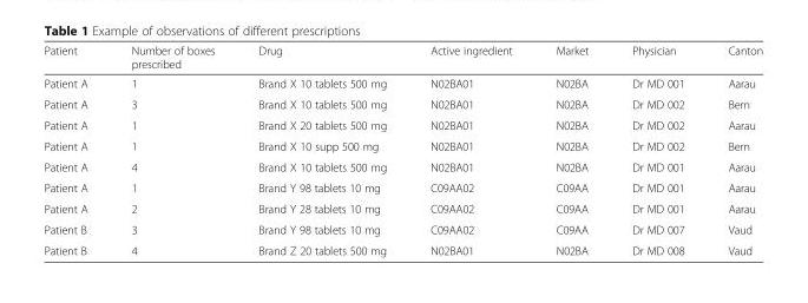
<table><thead><tr><td>Patient</td><td>Number of boxes prescribed</td><td>Drug</td><td>Active ingredient</td><td>Market</td><td>Physician</td><td>Canton</td></tr></thead><tbody><tr><td>Patient A</td><td>1</td><td>Brand X 10 tablets 500 mg</td><td>N02BA01</td><td>N02BA</td><td>Dr MD 001</td><td>Aarau</td></tr><tr><td>Patient A</td><td>3</td><td>Brand X 10 tablets 500 mg</td><td>N02BA01</td><td>N02BA</td><td>Dr MD 002</td><td>Bern</td></tr><tr><td>Patient A</td><td>1</td><td>Brand X 20 tablets 500 mg</td><td>N02BA01</td><td>N02BA</td><td>Dr MD 002</td><td>Aarau</td></tr><tr><td>Patient A</td><td>1</td><td>Brand X 10 supp 500 mg</td><td>N02BA01</td><td>N02BA</td><td>Dr MD 002</td><td>Bern</td></tr><tr><td>Patient A</td><td>4</td><td>Brand X 10 tablets 500 mg</td><td>N02BA01</td><td>N02BA</td><td>Dr MD 001</td><td>Aarau</td></tr><tr><td>Patient A</td><td>1</td><td>Brand Y 98 tablets 10 mg</td><td>C09AA02</td><td>C09AA</td><td>Dr MD 001</td><td>Aarau</td></tr><tr><td>Patient A</td><td>2</td><td>Brand Y 28 tablets 10 mg</td><td>C09AA02</td><td>C09AA</td><td>Dr MD 001</td><td>Aarau</td></tr><tr><td>Patient B</td><td>3</td><td>Brand Y 98 tablets 10 mg</td><td>C09AA02</td><td>C09AA</td><td>Dr MD 007</td><td>Vaud</td></tr><tr><td>Patient B</td><td>4</td><td>Brand Z 20 tablets 500 mg</td><td>N02BA01</td><td>N02BA</td><td>Dr MD 008</td><td>Vaud</td></tr></tbody></table>